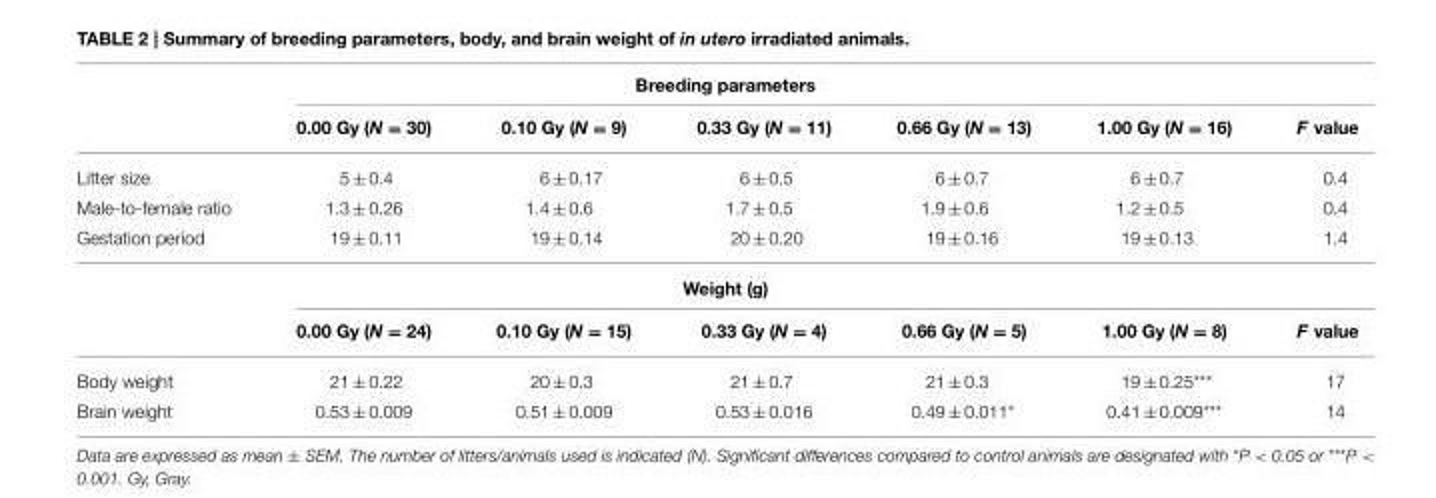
<table><thead><tr><td rowspan="2"></td><td colspan="6">Breeding parameters</td></tr><tr><td>0.00 Gy (N = 30)</td><td>0.10 Gy (N = 9)</td><td>0.33 Gy (N = 11)</td><td>0.66 Gy (N = 13)</td><td>1.00 Gy (N = 16)</td><td>F value</td></tr></thead><tbody><tr><td>Litter size</td><td>5 ± 0.4</td><td>6 ± 0.17</td><td>6 ± 0.5</td><td>6 ± 0.7</td><td>6 ± 0.7</td><td>0.4</td></tr><tr><td>Male-to-female ratio</td><td>1.3 ± 0.26</td><td>1.4 ± 0.6</td><td>1.7 ± 0.5</td><td>1.9 ± 0.6</td><td>1.2 ± 0.5</td><td>0.4</td></tr><tr><td rowspan="3">Gestation period</td><td>19 ± 0.11</td><td>19 ± 0.14</td><td>20 ± 0.20</td><td>19 ± 0.16</td><td>19 ± 0.13</td><td>1.4</td></tr><tr><td colspan="6">Weight (g)</td></tr><tr><td>0.00 Gy (N = 24)</td><td>0.10 Gy (N = 15)</td><td>0.33 Gy (N = 4)</td><td>0.66 Gy (N = 5)</td><td>1.00 Gy (N = 8)</td><td>F value</td></tr><tr><td>Body weight</td><td>21 ± 0.22</td><td>20 ± 0.3</td><td>21 ± 0.7</td><td>21 ± 0.3</td><td>19 ± 0.25***</td><td>17</td></tr><tr><td>Brain weight</td><td>0.53 ± 0.009</td><td>0.51 ± 0.009</td><td>0.53 ± 0.016</td><td>0.49 ± 0.011*</td><td>0.41 ± 0.009***</td><td>14</td></tr></tbody></table>